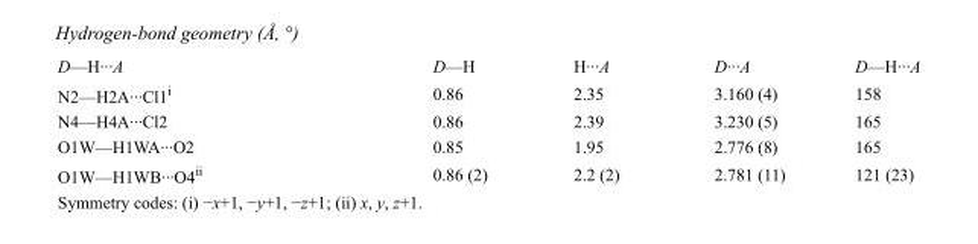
<table><tbody><tr><td>D—H···A</td><td>D—H</td><td>H···A</td><td>D···A</td><td>D—H···A</td></tr><tr><td>N2—H2A···Cl1<sup>i</sup></td><td>0.86</td><td>2.35</td><td>3.160 (4)</td><td>158</td></tr><tr><td>N4—H4A···Cl2</td><td>0.86</td><td>2.39</td><td>3.230 (5)</td><td>165</td></tr><tr><td>O1W—H1WA···O2</td><td>0.85</td><td>1.95</td><td>2.776 (8)</td><td>165</td></tr><tr><td>O1W—H1WB···O4<sup>ii</sup></td><td>0.86 (2)</td><td>2.2 (2)</td><td>2.781 (11)</td><td>121 (23)</td></tr></tbody></table>